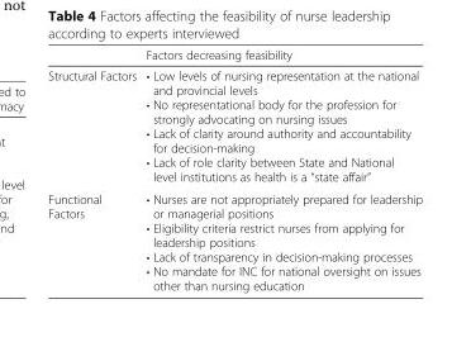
<table><thead><tr><td></td><td>Factors decreasing feasibility</td></tr></thead><tbody><tr><td>Structural Factors</td><td>• Low levels of nursing representation at the national and provincial levels • No representational body for the profession for strongly advocating on nursing issues • Lack of clarity around authority and accountability for decision-making • Lack of role clarity between State and National level institutions as health is a “state affair”</td></tr><tr><td>Functional Factors</td><td>• Nurses are not appropriately prepared for leadership or managerial positions • Eligibility criteria restrict nurses from applying for leadership positions • Lack of transparency in decision-making processes • No mandate for INC for national oversight on issues other than nursing education</td></tr></tbody></table>